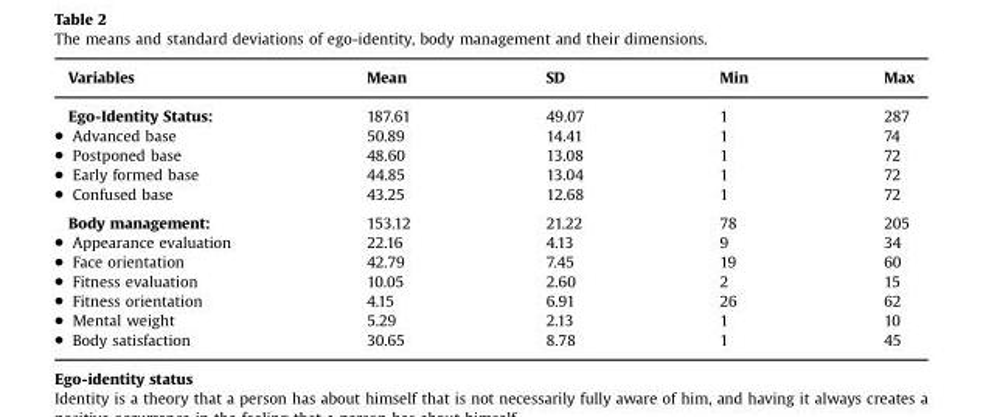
<table><thead><tr><td>Variables</td><td>Mean</td><td>SD</td><td>Min</td><td>Max</td></tr></thead><tbody><tr><td>Ego-Identity Status:</td><td>187.61</td><td>49.07</td><td>1</td><td>287</td></tr><tr><td>Advanced base</td><td>50.89</td><td>14.41</td><td>1</td><td>74</td></tr><tr><td>Postponed base</td><td>48.60</td><td>13.08</td><td>1</td><td>72</td></tr><tr><td>Early formed base</td><td>44.85</td><td>13.04</td><td>1</td><td>72</td></tr><tr><td>Confused base</td><td>43.25</td><td>12.68</td><td>1</td><td>72</td></tr><tr><td>Body management:</td><td>153.12</td><td>21.22</td><td>78</td><td>205</td></tr><tr><td>Appearance evaluation</td><td>22.16</td><td>4.13</td><td>9</td><td>34</td></tr><tr><td>Face orientation</td><td>42.79</td><td>7.45</td><td>19</td><td>60</td></tr><tr><td>Fitness evaluation</td><td>10.05</td><td>2.60</td><td>2</td><td>15</td></tr><tr><td>Fitness orientation</td><td>4.15</td><td>6.91</td><td>26</td><td>62</td></tr><tr><td>Mental weight</td><td>5.29</td><td>2.13</td><td>1</td><td>10</td></tr><tr><td>Body satisfaction</td><td>30.65</td><td>8.78</td><td>1</td><td>45</td></tr></tbody></table>